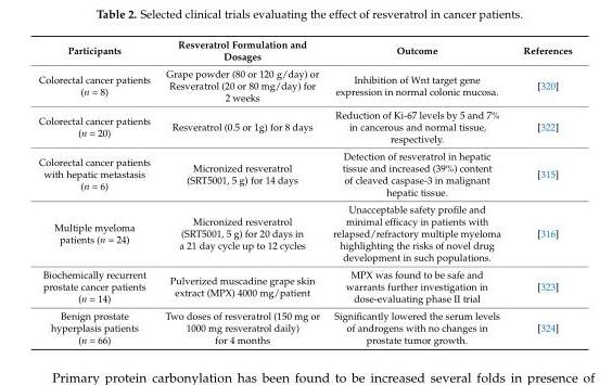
<table><thead><tr><td>Participants</td><td>Resveratrol Formulation and Dosages</td><td>Outcome</td><td>References</td></tr></thead><tbody><tr><td>Colorectal cancer patients (n = 8)</td><td>Grape powder (80 or 120 g/day) or Resveratrol (20 or 80 mg/day) for 2 weeks</td><td>Inhibition of Wnt target gene expression in normal colonic mucosa.</td><td>[320]</td></tr><tr><td>Colorectal cancer patients (n = 20)</td><td>Resveratrol (0.5 or 1g) for 8 days</td><td>Reduction of Ki-67 levels by 5 and 7% in cancerous and normal tissue, respectively.</td><td>[322]</td></tr><tr><td>Colorectal cancer patients with hepatic metastasis (n = 6)</td><td>Micronized resveratrol (SRT5001, 5 g) for 14 days</td><td>Detection of resveratrol in hepatic tissue and increased (39%) content of cleaved caspase-3 in malignant hepatic tissue.</td><td>[315]</td></tr><tr><td>Multiple myeloma patients (n = 24)</td><td>Micronized resveratrol (SRT5001, 5 g) for 20 days in a 21 day cycle up to 12 cycles</td><td>Unacceptable safety profile and minimal efficacy in patients with relapsed/refractory multiple myeloma highlighting the risks of novel drug development in such populations.</td><td>[316]</td></tr><tr><td>Biochemically recurrent prostate cancer patients (n = 14)</td><td>Pulverized muscadine grape skin extract (MPX) 4000 mg/patient</td><td>MPX was found to be safe and warrants further investigation in dose-evaluating phase II trial</td><td>[323]</td></tr><tr><td>Benign prostate hyperplasis patients (n = 66)</td><td>Two doses of resveratrol (150 mg or 1000 mg resveratrol daily) for 4 months</td><td>Significantly lowered the serum levels of androgens with no changes in prostate tumor growth.</td><td>[324]</td></tr></tbody></table>